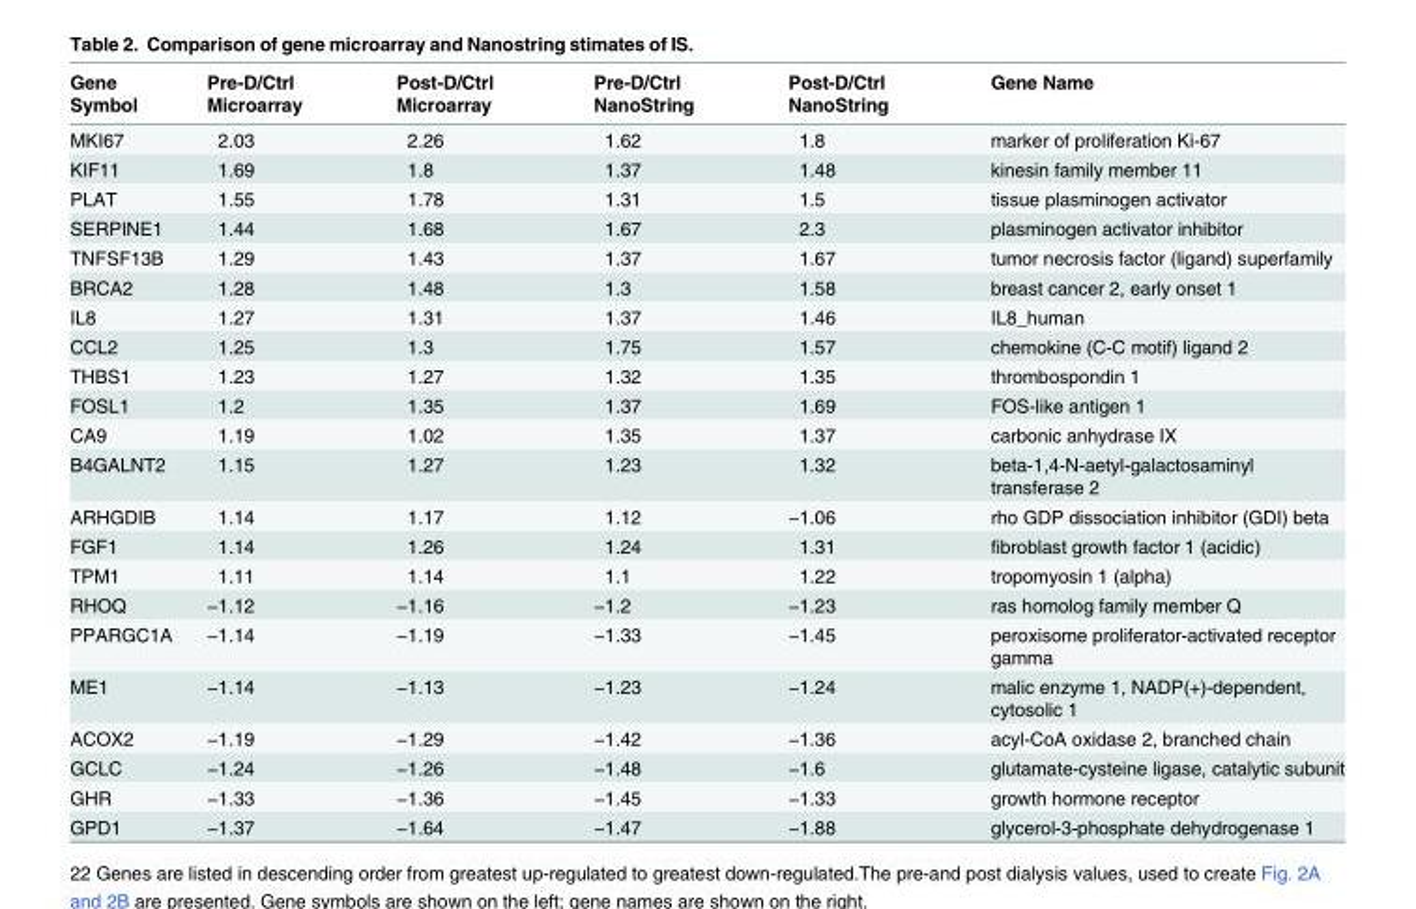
<table><thead><tr><td>Gene Symbol</td><td>Pre-D/Ctrl Microarray</td><td>Post-D/Ctrl Microarray</td><td>Pre-D/Ctrl NanoString</td><td>Post-D/Ctrl NanoString</td><td>Gene Name</td></tr></thead><tbody><tr><td>MKI67</td><td>2.03</td><td>2.26</td><td>1.62</td><td>1.8</td><td>marker of proliferation Ki-67</td></tr><tr><td>KIF11</td><td>1.69</td><td>1.8</td><td>1.37</td><td>1.48</td><td>kinesin family member 11</td></tr><tr><td>PLAT</td><td>1.55</td><td>1.78</td><td>1.31</td><td>1.5</td><td>tissue plasminogen activator</td></tr><tr><td>SERPINE1</td><td>1.44</td><td>1.68</td><td>1.67</td><td>2.3</td><td>plasminogen activator inhibitor</td></tr><tr><td>TNFSF13B</td><td>1.29</td><td>1.43</td><td>1.37</td><td>1.67</td><td>tumor necrosis factor (ligand) superfamily</td></tr><tr><td>BRCA2</td><td>1.28</td><td>1.48</td><td>1.3</td><td>1.58</td><td>breast cancer 2, early onset 1</td></tr><tr><td>IL8</td><td>1.27</td><td>1.31</td><td>1.37</td><td>1.46</td><td>IL8_human</td></tr><tr><td>CCL2</td><td>1.25</td><td>1.3</td><td>1.75</td><td>1.57</td><td>chemokine (C-C motif) ligand 2</td></tr><tr><td>THBS1</td><td>1.23</td><td>1.27</td><td>1.32</td><td>1.35</td><td>thrombospondin 1</td></tr><tr><td>FOSL1</td><td>1.2</td><td>1.35</td><td>1.37</td><td>1.69</td><td>FOS-like antigen 1</td></tr><tr><td>CA9</td><td>1.19</td><td>1.02</td><td>1.35</td><td>1.37</td><td>carbonic anhydrase IX</td></tr><tr><td>B4GALNT2</td><td>1.15</td><td>1.27</td><td>1.23</td><td>1.32</td><td>beta-1,4-N-aetyl-galactosaminyl transferase 2</td></tr><tr><td>ARHGDIB</td><td>1.14</td><td>1.17</td><td>1.12</td><td>−1.06</td><td>rho GDP dissociation inhibitor (GDI) beta</td></tr><tr><td>FGF1</td><td>1.14</td><td>1.26</td><td>1.24</td><td>1.31</td><td>fibroblast growth factor 1 (acidic)</td></tr><tr><td>TPM1</td><td>1.11</td><td>1.14</td><td>1.1</td><td>1.22</td><td>tropomyosin 1 (alpha)</td></tr><tr><td>RHOQ</td><td>−1.12</td><td>−1.16</td><td>−1.2</td><td>−1.23</td><td>ras homolog family member Q</td></tr><tr><td>PPARGC1A</td><td>−1.14</td><td>−1.19</td><td>−1.33</td><td>−1.45</td><td>peroxisome proliferator-activated receptor gamma</td></tr><tr><td>ME1</td><td>−1.14</td><td>−1.13</td><td>−1.23</td><td>−1.24</td><td>malic enzyme 1, NADP(+)-dependent, cytosolic 1</td></tr><tr><td>ACOX2</td><td>−1.19</td><td>−1.29</td><td>−1.42</td><td>−1.36</td><td>acyl-CoA oxidase 2, branched chain</td></tr><tr><td>GCLC</td><td>−1.24</td><td>−1.26</td><td>−1.48</td><td>−1.6</td><td>glutamate-cysteine ligase, catalytic subunit</td></tr><tr><td>GHR</td><td>−1.33</td><td>−1.36</td><td>−1.45</td><td>−1.33</td><td>growth hormone receptor</td></tr><tr><td>GPD1</td><td>−1.37</td><td>−1.64</td><td>−1.47</td><td>−1.88</td><td>glycerol-3-phosphate dehydrogenase 1</td></tr></tbody></table>